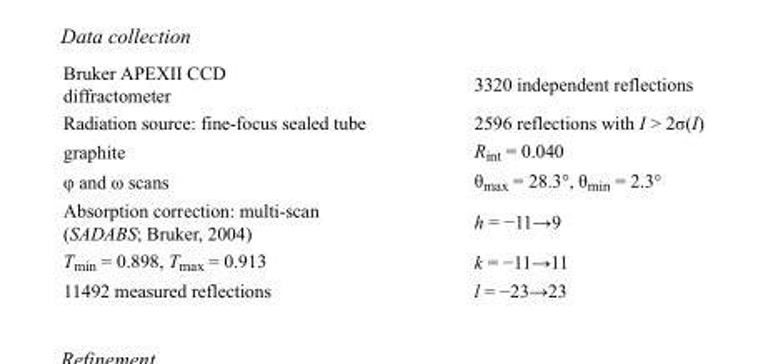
<table><tbody><tr><td>Bruker APEXII CCD diffractometer</td><td>3320 independent reflections</td></tr><tr><td>Radiation source: fine-focus sealed tube</td><td>2596 reflections with I &gt; 2σ(I)</td></tr><tr><td>graphite</td><td>R<sub>int</sub> = 0.040</td></tr><tr><td>φ and ω scans</td><td>θ<sub>max</sub> = 28.3°, θ<sub>min</sub> = 2.3°</td></tr><tr><td>Absorption correction: multi-scan (SADABS; Bruker, 2004)</td><td>h = −11→9</td></tr><tr><td>T<sub>min</sub> = 0.898, T<sub>max</sub> = 0.913</td><td>k = −11→11</td></tr><tr><td>11492 measured reflections</td><td>l = −23→23</td></tr></tbody></table>